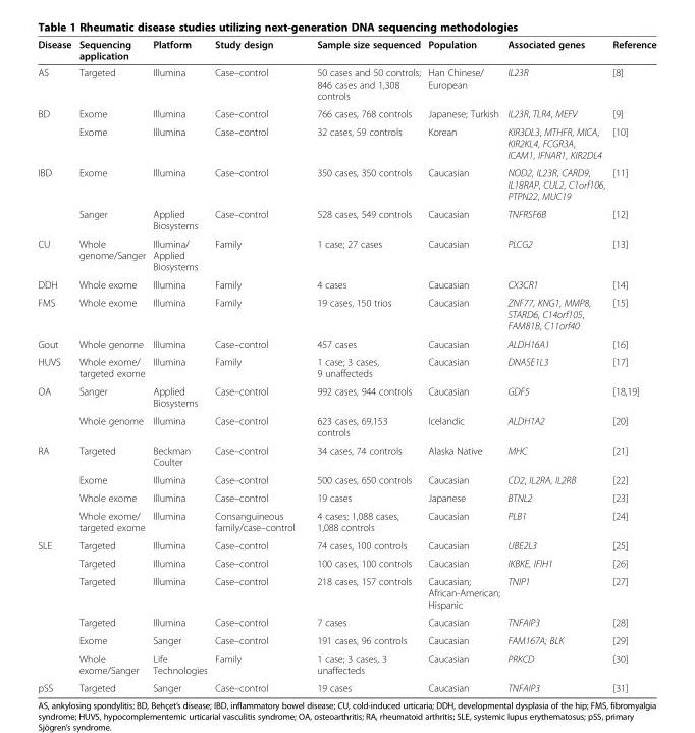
<table><thead><tr><td>Disease</td><td>Sequencing application</td><td>Platform</td><td>Study design</td><td>Sample size sequenced</td><td>Population</td><td>Associated genes</td><td>Reference</td></tr></thead><tbody><tr><td>AS</td><td>Targeted</td><td>Illumina</td><td>Case–control</td><td>50 cases and 50 controls; 846 cases and 1,308 controls</td><td>Han Chinese/ European</td><td>IL23R</td><td>[8]</td></tr><tr><td rowspan="2">BD</td><td>Exome</td><td>Illumina</td><td>Case–control</td><td>766 cases, 768 controls</td><td>Japanese; Turkish</td><td>IL23R, TLR4, MEFV</td><td>[9]</td></tr><tr><td>Exome</td><td>Illumina</td><td>Case–control</td><td>32 cases, 59 controls</td><td>Korean</td><td>KIR3DL3, MTHFR, MICA, KIR2KL4, FCGR3A, ICAM1, IFNAR1, KIR2DL4</td><td>[10]</td></tr><tr><td rowspan="2">IBD</td><td>Exome</td><td>Illumina</td><td>Case–control</td><td>350 cases, 350 controls</td><td>Caucasian</td><td>NOD2, IL23R, CARD9, IL18RAP, CUL2, C1orf106, PTPN22, MUC19</td><td>[11]</td></tr><tr><td>Sanger</td><td>Applied Biosystems</td><td>Case–control</td><td>528 cases, 549 controls</td><td>Caucasian</td><td>TNFRSF6B</td><td>[12]</td></tr><tr><td>CU</td><td>Whole genome/Sanger</td><td>Illumina/ Applied Biosystems</td><td>Family</td><td>1 case; 27 cases</td><td>Caucasian</td><td>PLCG2</td><td>[13]</td></tr><tr><td>DDH</td><td>Whole exome</td><td>Illumina</td><td>Family</td><td>4 cases</td><td>Caucasian</td><td>CX3CR1</td><td>[14]</td></tr><tr><td>FMS</td><td>Whole exome</td><td>Illumina</td><td>Family</td><td>19 cases, 150 trios</td><td>Caucasian</td><td>ZNF77, KNG1, MMP8, STARD6, C14orf105, FAM81B, C11orf40</td><td>[15]</td></tr><tr><td>Gout</td><td>Whole genome</td><td>Illumina</td><td>Case–control</td><td>457 cases</td><td>Caucasian</td><td>ALDH16A1</td><td>[16]</td></tr><tr><td>HUVS</td><td>Whole exome/ targeted exome</td><td>Illumina</td><td>Family</td><td>1 case; 3 cases, 9 unaffecteds</td><td>Caucasian</td><td>DNASE1L3</td><td>[17]</td></tr><tr><td rowspan="2">OA</td><td>Sanger</td><td>Applied Biosystems</td><td>Case–control</td><td>992 cases, 944 controls</td><td>Caucasian</td><td>GDF5</td><td>[18,19]</td></tr><tr><td>Whole genome</td><td>Illumina</td><td>Case–control</td><td>623 cases, 69,153 controls</td><td>Icelandic</td><td>ALDH1A2</td><td>[20]</td></tr><tr><td rowspan="4">RA</td><td>Targeted</td><td>Beckman Coulter</td><td>Case–control</td><td>34 cases, 74 controls</td><td>Alaska Native</td><td>MHC</td><td>[21]</td></tr><tr><td>Exome</td><td>Illumina</td><td>Case–control</td><td>500 cases, 650 controls</td><td>Caucasian</td><td>CD2, IL2RA, IL2RB</td><td>[22]</td></tr><tr><td>Whole exome</td><td>Illumina</td><td>Case–control</td><td>19 cases</td><td>Japanese</td><td>BTNL2</td><td>[23]</td></tr><tr><td>Whole exome/ targeted exome</td><td>Illumina</td><td>Consanguineous family/case–control</td><td>4 cases; 1,088 cases, 1,088 controls</td><td>Caucasian</td><td>PLB1</td><td>[24]</td></tr><tr><td rowspan="6">SLE</td><td>Targeted</td><td>Illumina</td><td>Case–control</td><td>74 cases, 100 controls</td><td>Caucasian</td><td>UBE2L3</td><td>[25]</td></tr><tr><td>Targeted</td><td>Illumina</td><td>Case–control</td><td>100 cases, 100 controls</td><td>Caucasian</td><td>IKBKE, IFIH1</td><td>[26]</td></tr><tr><td>Targeted</td><td>Illumina</td><td>Case–control</td><td>218 cases, 157 controls</td><td>Caucasian; African-American; Hispanic</td><td>TNIP1</td><td>[27]</td></tr><tr><td>Targeted</td><td>Illumina</td><td>Case–control</td><td>7 cases</td><td>Caucasian</td><td>TNFAIP3</td><td>[28]</td></tr><tr><td>Exome</td><td>Sanger</td><td>Case–control</td><td>191 cases, 96 controls</td><td>Caucasian</td><td>FAM167A; BLK</td><td>[29]</td></tr><tr><td>Whole exome/Sanger</td><td>Life Technologies</td><td>Family</td><td>1 case; 3 cases, 3 unaffecteds</td><td>Caucasian</td><td>PRKCD</td><td>[30]</td></tr><tr><td>pSS</td><td>Targeted</td><td>Sanger</td><td>Case–control</td><td>19 cases</td><td>Caucasian</td><td>TNFAIP3</td><td>[31]</td></tr></tbody></table>